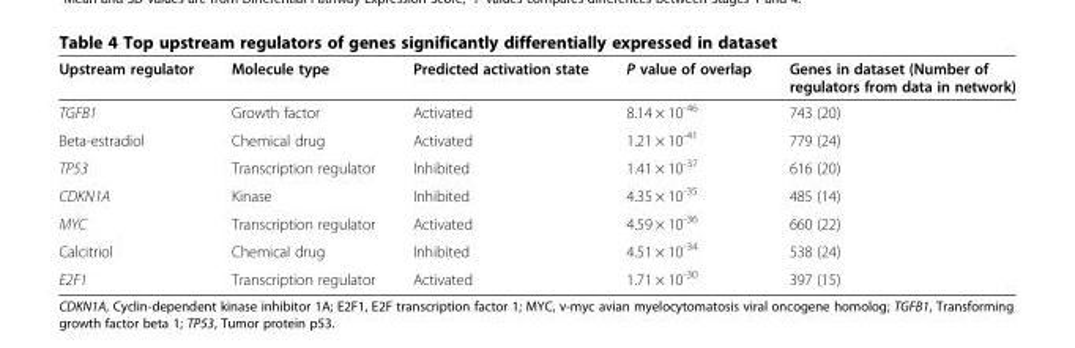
<table><thead><tr><td>Upstream regulator</td><td>Molecule type</td><td>Predicted activation state</td><td>P value of overlap</td><td>Genes in dataset (Number of regulators from data in network)</td></tr></thead><tbody><tr><td>TGFB1</td><td>Growth factor</td><td>Activated</td><td>8.14 × 10<sup>-46</sup></td><td>743 (20)</td></tr><tr><td>Beta-estradiol</td><td>Chemical drug</td><td>Activated</td><td>1.21 × 10<sup>-41</sup></td><td>779 (24)</td></tr><tr><td>TP53</td><td>Transcription regulator</td><td>Inhibited</td><td>1.41 × 10<sup>-37</sup></td><td>616 (20)</td></tr><tr><td>CDKN1A</td><td>Kinase</td><td>Inhibited</td><td>4.35 × 10<sup>-35</sup></td><td>485 (14)</td></tr><tr><td>MYC</td><td>Transcription regulator</td><td>Activated</td><td>4.59 × 10<sup>-36</sup></td><td>660 (22)</td></tr><tr><td>Calcitriol</td><td>Chemical drug</td><td>Inhibited</td><td>4.51 × 10<sup>-34</sup></td><td>538 (24)</td></tr><tr><td>E2F1</td><td>Transcription regulator</td><td>Activated</td><td>1.71 × 10<sup>-30</sup></td><td>397 (15)</td></tr></tbody></table>